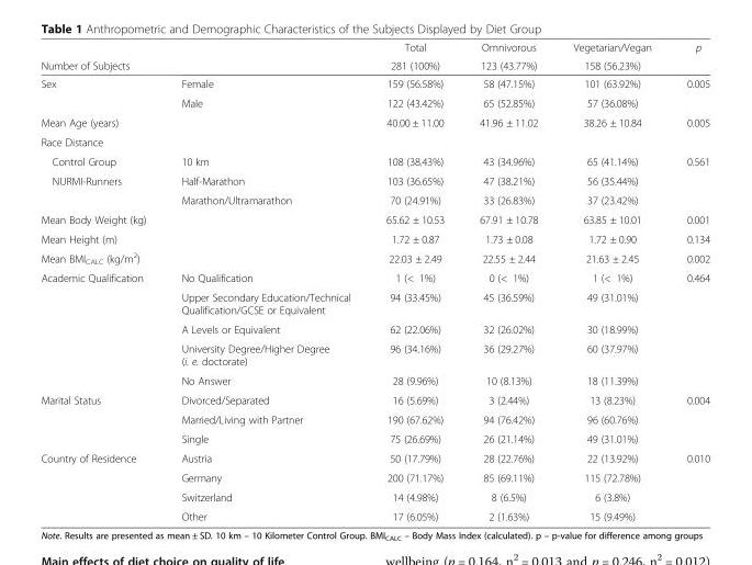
<table><thead><tr><td rowspan="2">Number of Subjects</td><td rowspan="2"></td><td rowspan="2">Total 281 (100%)</td><td rowspan="2">Omnivorous 123 (43.77%)</td><td rowspan="2">Vegetarian/Vegan 158 (56.23%)</td><td rowspan="2">p</td></tr><tr></tr></thead><tbody><tr><td rowspan="2">Sex</td><td>Female</td><td>159 (56.58%)</td><td>58 (47.15%)</td><td>101 (63.92%)</td><td rowspan="2">0.005</td></tr><tr><td>Male</td><td>122 (43.42%)</td><td>65 (52.85%)</td><td>57 (36.08%)</td></tr><tr><td>Mean Age (years)</td><td></td><td>40.00 ± 11.00</td><td>41.96 ± 11.02</td><td>38.26 ± 10.84</td><td>0.005</td></tr><tr><td colspan="6">Race Distance</td></tr><tr><td>Control Group</td><td>10 km</td><td>108 (38.43%)</td><td>43 (34.96%)</td><td>65 (41.14%)</td><td rowspan="3">0.561</td></tr><tr><td rowspan="2">NURMI-Runners</td><td>Half-Marathon</td><td>103 (36.65%)</td><td>47 (38.21%)</td><td>56 (35.44%)</td></tr><tr><td>Marathon/Ultramarathon</td><td>70 (24.91%)</td><td>33 (26.83%)</td><td>37 (23.42%)</td></tr><tr><td>Mean Body Weight (kg)</td><td></td><td>65.62 ± 10.53</td><td>67.91 ± 10.78</td><td>63.85 ± 10.01</td><td>0.001</td></tr><tr><td>Mean Height (m)</td><td></td><td>1.72 ± 0.87</td><td>1.73 ± 0.08</td><td>1.72 ± 0.90</td><td>0.134</td></tr><tr><td>Mean BMI<sub>CALC</sub> (kg/m<sup>2</sup>)</td><td></td><td>22.03 ± 2.49</td><td>22.55 ± 2.44</td><td>21.63 ± 2.45</td><td>0.002</td></tr><tr><td rowspan="5">Academic Qualification</td><td>No Qualification</td><td>1 (&lt; 1%)</td><td>0 (&lt; 1%)</td><td>1 (&lt; 1%)</td><td rowspan="5">0.464</td></tr><tr><td>Upper Secondary Education/Technical Qualification/GCSE or Equivalent</td><td>94 (33.45%)</td><td>45 (36.59%)</td><td>49 (31.01%)</td></tr><tr><td>A Levels or Equivalent</td><td>62 (22.06%)</td><td>32 (26.02%)</td><td>30 (18.99%)</td></tr><tr><td>University Degree/Higher Degree (i. e. doctorate)</td><td>96 (34.16%)</td><td>36 (29.27%)</td><td>60 (37.97%)</td></tr><tr><td>No Answer</td><td>28 (9.96%)</td><td>10 (8.13%)</td><td>18 (11.39%)</td></tr><tr><td rowspan="3">Marital Status</td><td>Divorced/Separated</td><td>16 (5.69%)</td><td>3 (2.44%)</td><td>13 (8.23%)</td><td rowspan="3">0.004</td></tr><tr><td>Married/Living with Partner</td><td>190 (67.62%)</td><td>94 (76.42%)</td><td>96 (60.76%)</td></tr><tr><td>Single</td><td>75 (26.69%)</td><td>26 (21.14%)</td><td>49 (31.01%)</td></tr><tr><td rowspan="4">Country of Residence</td><td>Austria</td><td>50 (17.79%)</td><td>28 (22.76%)</td><td>22 (13.92%)</td><td rowspan="4">0.010</td></tr><tr><td>Germany</td><td>200 (71.17%)</td><td>85 (69.11%)</td><td>115 (72.78%)</td></tr><tr><td>Switzerland</td><td>14 (4.98%)</td><td>8 (6.5%)</td><td>6 (3.8%)</td></tr><tr><td>Other</td><td>17 (6.05%)</td><td>2 (1.63%)</td><td>15 (9.49%)</td></tr></tbody></table>